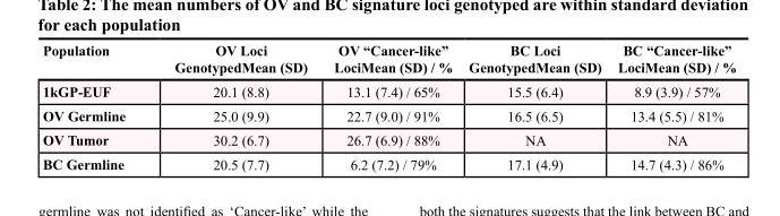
<table><thead><tr><td>Population</td><td>OV Loci GenotypedMean (SD)</td><td>OV “Cancer-like” LociMean (SD) / %</td><td>BC Loci GenotypedMean (SD)</td><td>BC “Cancer-like” LociMean (SD) / %</td></tr></thead><tbody><tr><td>1kGP-EUF</td><td>20.1 (8.8)</td><td>13.1 (7.4) / 65%</td><td>15.5 (6.4)</td><td>8.9 (3.9) / 57%</td></tr><tr><td>OV Germline</td><td>25.0 (9.9)</td><td>22.7 (9.0) / 91%</td><td>16.5 (6.5)</td><td>13.4 (5.5) / 81%</td></tr><tr><td>OV Tumor</td><td>30.2 (6.7)</td><td>26.7 (6.9) / 88%</td><td>NA</td><td>NA</td></tr><tr><td>BC Germline</td><td>20.5 (7.7)</td><td>6.2 (7.2) / 79%</td><td>17.1 (4.9)</td><td>14.7 (4.3) / 86%</td></tr></tbody></table>